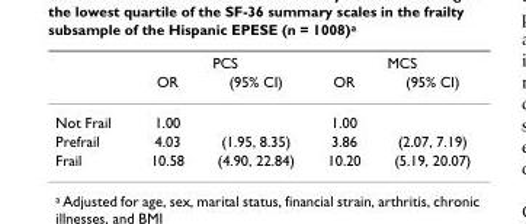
<table><thead><tr><td rowspan="2"></td><td colspan="2">PCS</td><td colspan="2">MCS</td></tr><tr><td>OR</td><td>(95% CI)</td><td>OR</td><td>(95% CI)</td></tr></thead><tbody><tr><td>Not Frail</td><td>1.00</td><td></td><td>1.00</td><td></td></tr><tr><td>Prefrail</td><td>4.03</td><td>(1.95, 8.35)</td><td>3.86</td><td>(2.07, 7.19)</td></tr><tr><td>Frail</td><td>10.58</td><td>(4.90, 22.84)</td><td>10.20</td><td>(5.19, 20.07)</td></tr></tbody></table>